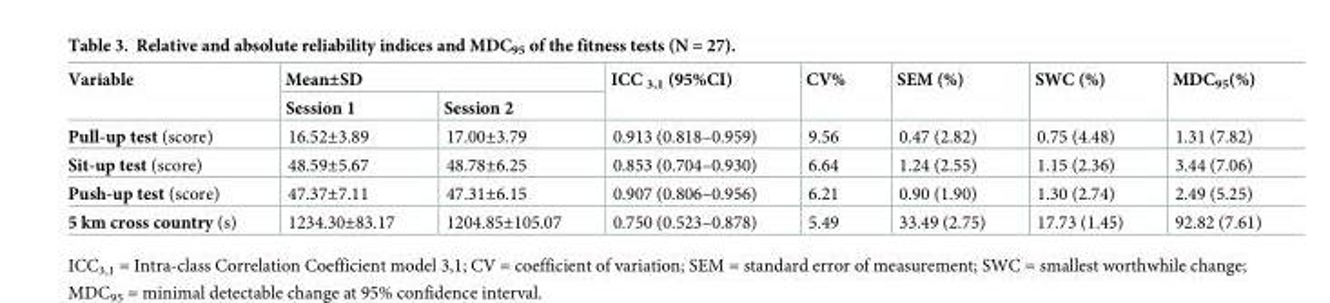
<table><thead><tr><td rowspan="2">Variable</td><td colspan="2">Mean±SD</td><td rowspan="2">ICC <sub>3,1</sub> (95%CI)</td><td rowspan="2">CV%</td><td rowspan="2">SEM (%)</td><td rowspan="2">SWC (%)</td><td rowspan="2">MDC<sub>95</sub>(%)</td></tr><tr><td>Session 1</td><td>Session 2</td></tr></thead><tbody><tr><td>Pull-up test (score)</td><td>16.52±3.89</td><td>17.00±3.79</td><td>0.913 (0.818–0.959)</td><td>9.56</td><td>0.47 (2.82)</td><td>0.75 (4.48)</td><td>1.31 (7.82)</td></tr><tr><td>Sit-up test (score)</td><td>48.59±5.67</td><td>48.78±6.25</td><td>0.853 (0.704–0.930)</td><td>6.64</td><td>1.24 (2.55)</td><td>1.15 (2.36)</td><td>3.44 (7.06)</td></tr><tr><td>Push-up test (score)</td><td>47.37±7.11</td><td>47.31±6.15</td><td>0.907 (0.806–0.956)</td><td>6.21</td><td>0.90 (1.90)</td><td>1.30 (2.74)</td><td>2.49 (5.25)</td></tr><tr><td>5 km cross country (s)</td><td>1234.30±83.17</td><td>1204.85±105.07</td><td>0.750 (0.523–0.878)</td><td>5.49</td><td>33.49 (2.75)</td><td>17.73 (1.45)</td><td>92.82 (7.61)</td></tr></tbody></table>